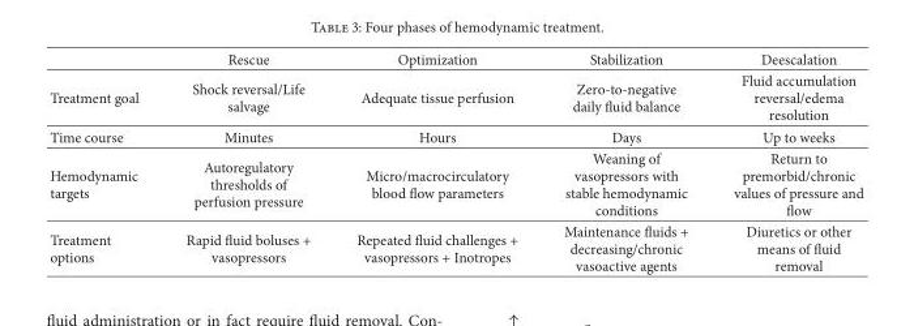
<table><thead><tr><td></td><td>Rescue</td><td>Optimization</td><td>Stabilization</td><td>Deescalation</td></tr></thead><tbody><tr><td>Treatment goal</td><td>Shock reversal/Life salvage</td><td>Adequate tissue perfusion</td><td>Zero-to-negative daily fluid balance</td><td>Fluid accumulation reversal/edema resolution</td></tr><tr><td>Time course</td><td>Minutes</td><td>Hours</td><td>Days</td><td>Up to weeks</td></tr><tr><td>Hemodynamic targets</td><td>Autoregulatory thresholds of perfusion pressure</td><td>Micro/macrocirculatory blood flow parameters</td><td>Weaning of vasopressors with stable hemodynamic conditions</td><td>Return to premorbid/chronic values of pressure and flow</td></tr><tr><td>Treatment options</td><td>Rapid fluid boluses + vasopressors</td><td>Repeated fluid challenges + vasopressors + Inotropes</td><td>Maintenance fluids + decreasing/chronic vasoactive agents</td><td>Diuretics or other means of fluid removal</td></tr></tbody></table>